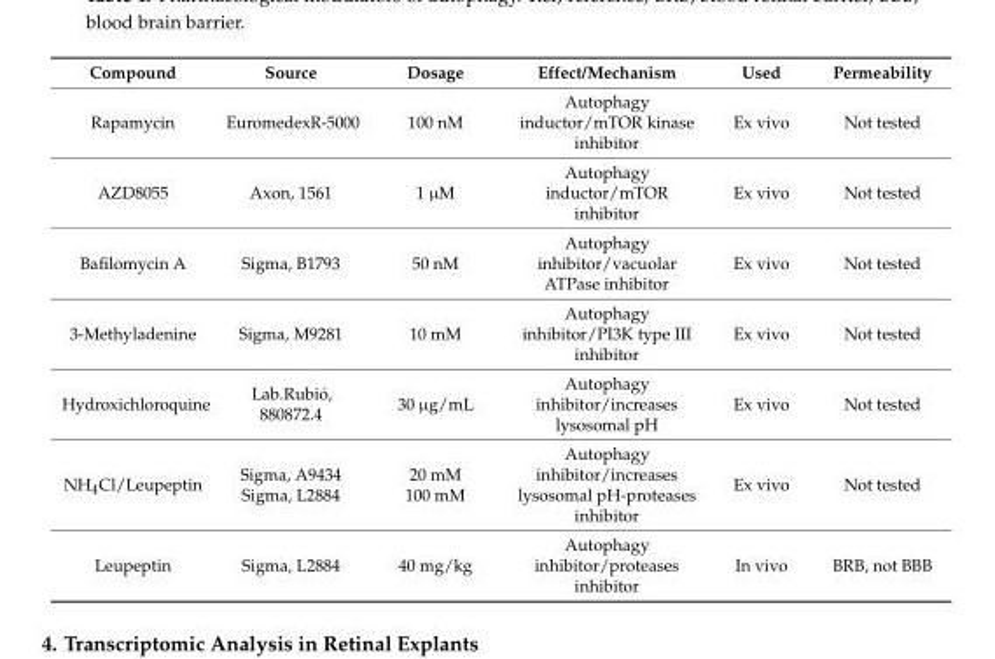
<table><thead><tr><td>Compound</td><td>Source</td><td>Dosage</td><td>Effect/Mechanism</td><td>Used</td><td>Permeability</td></tr></thead><tbody><tr><td>Rapamycin</td><td>EuromedexR-5000</td><td>100 nM</td><td>Autophagy inductor/mTOR kinase inhibitor</td><td>Ex vivo</td><td>Not tested</td></tr><tr><td>AZD8055</td><td>Axon, 1561</td><td>1 µM</td><td>Autophagy inductor/mTOR inhibitor</td><td>Ex vivo</td><td>Not tested</td></tr><tr><td>Bafilomycin A</td><td>Sigma, B1793</td><td>50 nM</td><td>Autophagy inhibitor/vacuolar ATPase inhibitor</td><td>Ex vivo</td><td>Not tested</td></tr><tr><td>3-Methyladenine</td><td>Sigma, M9281</td><td>10 mM</td><td>Autophagy inhibitor/PI3K type III inhibitor</td><td>Ex vivo</td><td>Not tested</td></tr><tr><td>Hydroxichloroquine</td><td>Lab.Rubió, 880872.4</td><td>30 µg/mL</td><td>Autophagy inhibitor/increases lysosomal pH</td><td>Ex vivo</td><td>Not tested</td></tr><tr><td>NH<sub>4</sub>Cl/Leupeptin</td><td>Sigma, A9434 Sigma, L2884</td><td>20 mM 100 mM</td><td>Autophagy inhibitor/increases lysosomal pH-proteases inhibitor</td><td>Ex vivo</td><td>Not tested</td></tr><tr><td>Leupeptin</td><td>Sigma, L2884</td><td>40 mg/kg</td><td>Autophagy inhibitor/proteases inhibitor</td><td>In vivo</td><td>BRB, not BBB</td></tr></tbody></table>